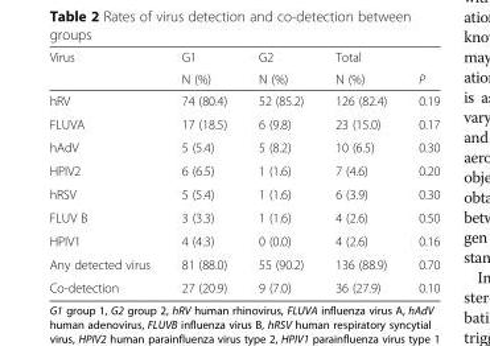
<table><thead><tr><td rowspan="2">Virus</td><td rowspan="2">G1 N (%)</td><td rowspan="2">G2 N (%)</td><td rowspan="2">Total N (%)</td><td rowspan="2">P</td></tr><tr></tr></thead><tbody><tr><td>hRV</td><td>74 (80.4)</td><td>52 (85.2)</td><td>126 (82.4)</td><td>0.19</td></tr><tr><td>FLUVA</td><td>17 (18.5)</td><td>6 (9.8)</td><td>23 (15.0)</td><td>0.17</td></tr><tr><td>hAdV</td><td>5 (5.4)</td><td>5 (8.2)</td><td>10 (6.5)</td><td>0.30</td></tr><tr><td>HPIV2</td><td>6 (6.5)</td><td>1 (1.6)</td><td>7 (4.6)</td><td>0.20</td></tr><tr><td>hRSV</td><td>5 (5.4)</td><td>1 (1.6)</td><td>6 (3.9)</td><td>0.30</td></tr><tr><td>FLUV B</td><td>3 (3.3)</td><td>1 (1.6)</td><td>4 (2.6)</td><td>0.50</td></tr><tr><td>HPIV1</td><td>4 (4.3)</td><td>0 (0.0)</td><td>4 (2.6)</td><td>0.16</td></tr><tr><td>Any detected virus</td><td>81 (88.0)</td><td>55 (90.2)</td><td>136 (88.9)</td><td>0.70</td></tr><tr><td>Co-detection</td><td>27 (20.9)</td><td>9 (7.0)</td><td>36 (27.9)</td><td>0.10</td></tr></tbody></table>